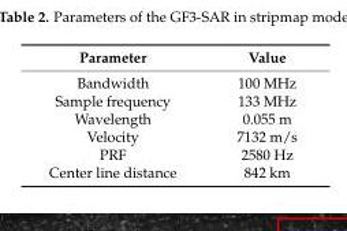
<table><thead><tr><td>Parameter</td><td>Value</td></tr></thead><tbody><tr><td>Bandwidth</td><td>100 MHz</td></tr><tr><td>Sample frequency</td><td>133 MHz</td></tr><tr><td>Wavelength</td><td>0.055 m</td></tr><tr><td>Velocity</td><td>7132 m/s</td></tr><tr><td>PRF</td><td>2580 Hz</td></tr><tr><td>Center line distance</td><td>842 km</td></tr></tbody></table>